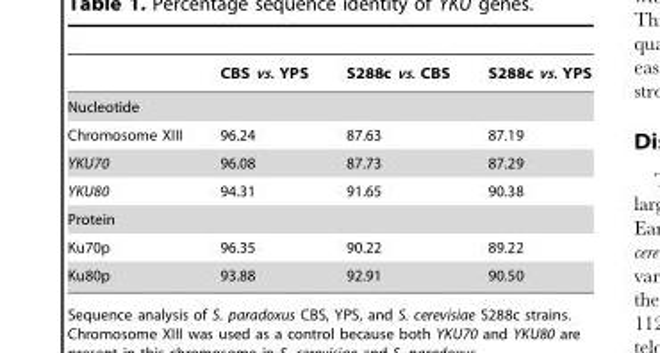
<table><thead><tr><td></td><td>CBS vs. YPS</td><td>S288c vs. CBS</td><td>S288c vs. YPS</td></tr></thead><tbody><tr><td colspan="4">Nucleotide</td></tr><tr><td>Chromosome XIII</td><td>96.24</td><td>87.63</td><td>87.19</td></tr><tr><td>YKU70</td><td>96.08</td><td>87.73</td><td>87.29</td></tr><tr><td>YKU80</td><td>94.31</td><td>91.65</td><td>90.38</td></tr><tr><td colspan="4">Protein</td></tr><tr><td>Ku70p</td><td>96.35</td><td>90.22</td><td>89.22</td></tr><tr><td>Ku80p</td><td>93.88</td><td>92.91</td><td>90.50</td></tr></tbody></table>